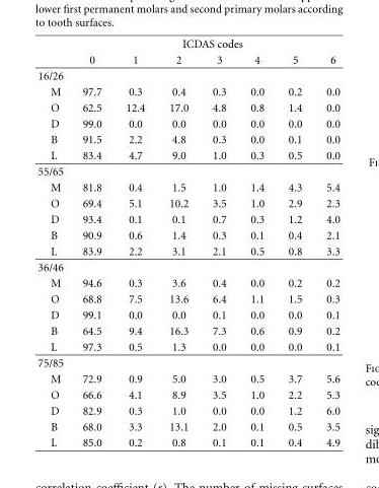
<table><thead><tr><td rowspan="2"></td><td colspan="7">ICDAS codes</td></tr><tr><td>0</td><td>1</td><td>2</td><td>3</td><td>4</td><td>5</td><td>6</td></tr></thead><tbody><tr><td colspan="8">16/26</td></tr><tr><td>M</td><td>97.7</td><td>0.3</td><td>0.4</td><td>0.3</td><td>0.0</td><td>0.2</td><td>0.0</td></tr><tr><td>O</td><td>62.5</td><td>12.4</td><td>17.0</td><td>4.8</td><td>0.8</td><td>1.4</td><td>0.0</td></tr><tr><td>D</td><td>99.0</td><td>0.0</td><td>0.0</td><td>0.0</td><td>0.0</td><td>0.0</td><td>0.0</td></tr><tr><td>B</td><td>91.5</td><td>2.2</td><td>4.8</td><td>0.3</td><td>0.0</td><td>0.1</td><td>0.0</td></tr><tr><td>L</td><td>83.4</td><td>4.7</td><td>9.0</td><td>1.0</td><td>0.3</td><td>0.5</td><td>0.0</td></tr><tr><td colspan="8">55/65</td></tr><tr><td>M</td><td>81.8</td><td>0.4</td><td>1.5</td><td>1.0</td><td>1.4</td><td>4.3</td><td>5.4</td></tr><tr><td>O</td><td>69.4</td><td>5.1</td><td>10.2</td><td>3.5</td><td>1.0</td><td>2.9</td><td>2.3</td></tr><tr><td>D</td><td>93.4</td><td>0.1</td><td>0.1</td><td>0.7</td><td>0.3</td><td>1.2</td><td>4.0</td></tr><tr><td>B</td><td>90.9</td><td>0.6</td><td>1.4</td><td>0.3</td><td>0.1</td><td>0.4</td><td>2.1</td></tr><tr><td>L</td><td>83.9</td><td>2.2</td><td>3.1</td><td>2.1</td><td>0.5</td><td>0.8</td><td>3.3</td></tr><tr><td colspan="8">36/46</td></tr><tr><td>M</td><td>94.6</td><td>0.3</td><td>3.6</td><td>0.4</td><td>0.0</td><td>0.2</td><td>0.2</td></tr><tr><td>O</td><td>68.8</td><td>7.5</td><td>13.6</td><td>6.4</td><td>1.1</td><td>1.5</td><td>0.3</td></tr><tr><td>D</td><td>99.1</td><td>0.0</td><td>0.0</td><td>0.1</td><td>0.0</td><td>0.0</td><td>0.1</td></tr><tr><td>B</td><td>64.5</td><td>9.4</td><td>16.3</td><td>7.3</td><td>0.6</td><td>0.9</td><td>0.2</td></tr><tr><td>L</td><td>97.3</td><td>0.5</td><td>1.3</td><td>0.0</td><td>0.0</td><td>0.0</td><td>0.1</td></tr><tr><td colspan="8">75/85</td></tr><tr><td>M</td><td>72.9</td><td>0.9</td><td>5.0</td><td>3.0</td><td>0.5</td><td>3.7</td><td>5.6</td></tr><tr><td>O</td><td>66.6</td><td>4.1</td><td>8.9</td><td>3.5</td><td>1.0</td><td>2.2</td><td>5.3</td></tr><tr><td>D</td><td>82.9</td><td>0.3</td><td>1.0</td><td>0.0</td><td>0.0</td><td>1.2</td><td>6.0</td></tr><tr><td>B</td><td>68.0</td><td>3.3</td><td>13.1</td><td>2.0</td><td>0.1</td><td>0.5</td><td>3.5</td></tr><tr><td>L</td><td>85.0</td><td>0.2</td><td>0.8</td><td>0.1</td><td>0.1</td><td>0.4</td><td>4.9</td></tr></tbody></table>